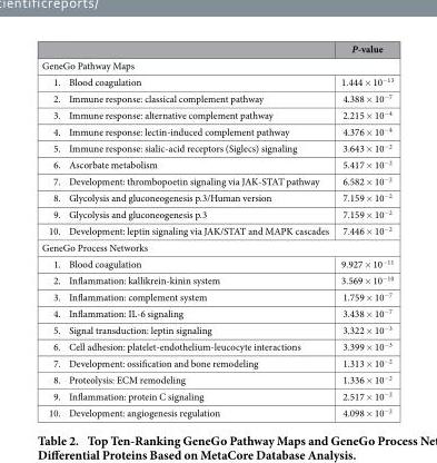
<table><thead><tr><td></td><td>P-value</td></tr></thead><tbody><tr><td colspan="2">GeneGo Pathway Maps</td></tr><tr><td>1. Blood coagulation</td><td>1.444 × 10<sup>−13</sup></td></tr><tr><td>2. Immune response: classical complement pathway</td><td>4.388 × 10<sup>−7</sup></td></tr><tr><td>3. Immune response: alternative complement pathway</td><td>2.215 × 10<sup>−4</sup></td></tr><tr><td>4. Immune response: lectin-induced complement pathway</td><td>4.376 × 10<sup>−4</sup></td></tr><tr><td>5. Immune response: sialic-acid receptors (Siglecs) signaling</td><td>3.643 × 10<sup>−2</sup></td></tr><tr><td>6. Ascorbate metabolism</td><td>5.417 × 10<sup>−2</sup></td></tr><tr><td>7. Development: thrombopoetin signaling via JAK-STAT pathway</td><td>6.582 × 10<sup>−2</sup></td></tr><tr><td>8. Glycolysis and gluconeogenesis p.3/Human version</td><td>7.159 × 10<sup>−2</sup></td></tr><tr><td>9. Glycolysis and gluconeogenesis p.3</td><td>7.159 × 10<sup>−2</sup></td></tr><tr><td>10. Development: leptin signaling via JAK/STAT and MAPK cascades</td><td>7.446 × 10<sup>−2</sup></td></tr><tr><td colspan="2">GeneGo Process Networks</td></tr><tr><td>1. Blood coagulation</td><td>9.927 × 10<sup>−11</sup></td></tr><tr><td>2. Inflammation: kallikrein-kinin system</td><td>3.569 × 10<sup>−10</sup></td></tr><tr><td>3. Inflammation: complement system</td><td>1.759 × 10<sup>−7</sup></td></tr><tr><td>4. Inflammation: IL-6 signaling</td><td>3.438 × 10<sup>−7</sup></td></tr><tr><td>5. Signal transduction: leptin signaling</td><td>3.322 × 10<sup>−3</sup></td></tr><tr><td>6. Cell adhesion: platelet-endothelium-leucocyte interactions</td><td>3.399 × 10<sup>−3</sup></td></tr><tr><td>7. Development: ossification and bone remodeling</td><td>1.313 × 10<sup>−2</sup></td></tr><tr><td>8. Proteolysis: ECM remodeling</td><td>1.336 × 10<sup>−2</sup></td></tr><tr><td>9. Inflammation: protein C signaling</td><td>2.517 × 10<sup>−2</sup></td></tr><tr><td>10. Development: angiogenesis regulation</td><td>4.098 × 10<sup>−2</sup></td></tr></tbody></table>